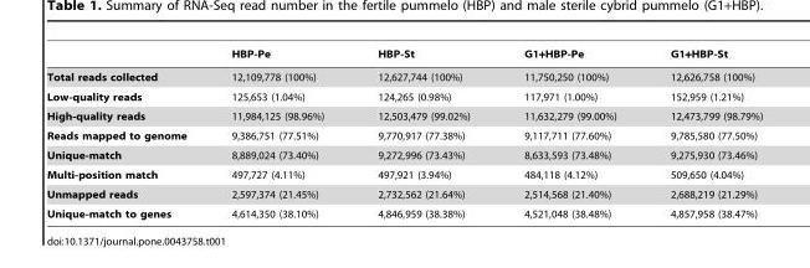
<table><thead><tr><td></td><td>HBP-Pe</td><td>HBP-St</td><td>G1+HBP-Pe</td><td>G1+HBP-St</td></tr></thead><tbody><tr><td>Total reads collected</td><td>12,109,778 (100%)</td><td>12,627,744 (100%)</td><td>11,750,250 (100%)</td><td>12,626,758 (100%)</td></tr><tr><td>Low-quality reads</td><td>125,653 (1.04%)</td><td>124,265 (0.98%)</td><td>117,971 (1.00%)</td><td>152,959 (1.21%)</td></tr><tr><td>High-quality reads</td><td>11,984,125 (98.96%)</td><td>12,503,479 (99.02%)</td><td>11,632,279 (99.00%)</td><td>12,473,799 (98.79%)</td></tr><tr><td>Reads mapped to genome</td><td>9,386,751 (77.51%)</td><td>9,770,917 (77.38%)</td><td>9,117,711 (77.60%)</td><td>9,785,580 (77.50%)</td></tr><tr><td>Unique-match</td><td>8,889,024 (73.40%)</td><td>9,272,996 (73.43%)</td><td>8,633,593 (73.48%)</td><td>9,275,930 (73.46%)</td></tr><tr><td>Multi-position match</td><td>497,727 (4.11%)</td><td>497,921 (3.94%)</td><td>484,118 (4.12%)</td><td>509,650 (4.04%)</td></tr><tr><td>Unmapped reads</td><td>2,597,374 (21.45%)</td><td>2,732,562 (21.64%)</td><td>2,514,568 (21.40%)</td><td>2,688,219 (21.29%)</td></tr><tr><td>Unique-match to genes</td><td>4,614,350 (38.10%)</td><td>4,846,959 (38.38%)</td><td>4,521,048 (38.48%)</td><td>4,857,958 (38.47%)</td></tr></tbody></table>